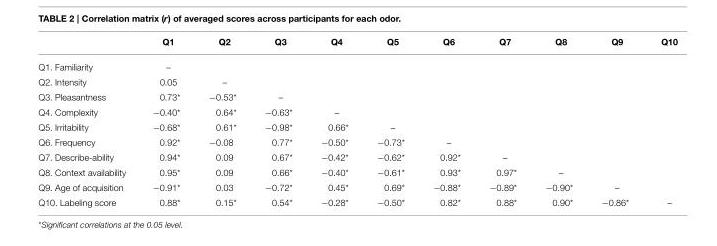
<table><thead><tr><td></td><td>Q1</td><td>Q2</td><td>Q3</td><td>Q4</td><td>Q5</td><td>Q6</td><td>Q7</td><td>Q8</td><td>Q9</td><td>Q10</td></tr></thead><tbody><tr><td>Q1. Familiarity</td><td>–</td><td></td><td></td><td></td><td></td><td></td><td></td><td></td><td></td><td></td></tr><tr><td>Q2. Intensity</td><td>0.05</td><td>–</td><td></td><td></td><td></td><td></td><td></td><td></td><td></td><td></td></tr><tr><td>Q3. Pleasantness</td><td>0.73*</td><td>−0.53*</td><td>–</td><td></td><td></td><td></td><td></td><td></td><td></td><td></td></tr><tr><td>Q4. Complexity</td><td>−0.40*</td><td>0.64*</td><td>−0.63*</td><td>–</td><td></td><td></td><td></td><td></td><td></td><td></td></tr><tr><td>Q5. Irritability</td><td>−0.68*</td><td>0.61*</td><td>−0.98*</td><td>0.66*</td><td>–</td><td></td><td></td><td></td><td></td><td></td></tr><tr><td>Q6. Frequency</td><td>0.92*</td><td>−0.08</td><td>0.77*</td><td>−0.50*</td><td>−0.73*</td><td>–</td><td></td><td></td><td></td><td></td></tr><tr><td>Q7. Describe-ability</td><td>0.94*</td><td>0.09</td><td>0.67*</td><td>−0.42*</td><td>−0.62*</td><td>0.92*</td><td>–</td><td></td><td></td><td></td></tr><tr><td>Q8. Context availability</td><td>0.95*</td><td>0.09</td><td>0.66*</td><td>−0.40*</td><td>−0.61*</td><td>0.93*</td><td>0.97*</td><td>–</td><td></td><td></td></tr><tr><td>Q9. Age of acquisition</td><td>−0.91*</td><td>0.03</td><td>−0.72*</td><td>0.45*</td><td>0.69*</td><td>−0.88*</td><td>−0.89*</td><td>−0.90*</td><td>–</td><td></td></tr><tr><td>Q10. Labeling score</td><td>0.88*</td><td>0.15*</td><td>0.54*</td><td>−0.28*</td><td>−0.50*</td><td>0.82*</td><td>0.88*</td><td>0.90*</td><td>−0.86*</td><td>–</td></tr></tbody></table>